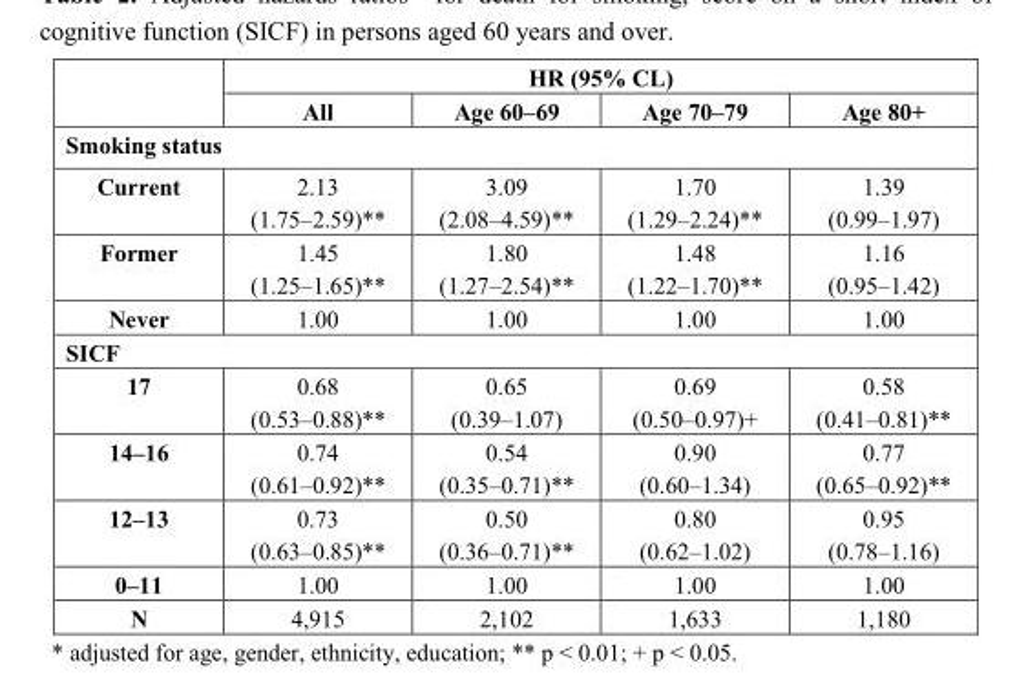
<table><thead><tr><td rowspan="2"></td><td colspan="4">HR (95% CL)</td></tr><tr><td>All</td><td>Age 60–69</td><td>Age 70–79</td><td>Age 80+</td></tr></thead><tbody><tr><td colspan="5">Smoking status</td></tr><tr><td>Current</td><td>2.13 (1.75–2.59)**</td><td>3.09 (2.08–4.59)**</td><td>1.70 (1.29–2.24)**</td><td>1.39 (0.99–1.97)</td></tr><tr><td>Former</td><td>1.45 (1.25–1.65)**</td><td>1.80 (1.27–2.54)**</td><td>1.48 (1.22–1.70)**</td><td>1.16 (0.95–1.42)</td></tr><tr><td>Never</td><td>1.00</td><td>1.00</td><td>1.00</td><td>1.00</td></tr><tr><td colspan="5">SICF</td></tr><tr><td>17</td><td>0.68 (0.53–0.88)**</td><td>0.65 (0.39–1.07)</td><td>0.69 (0.50–0.97)+</td><td>0.58 (0.41–0.81)**</td></tr><tr><td>14–16</td><td>0.74 (0.61–0.92)**</td><td>0.54 (0.35–0.71)**</td><td>0.90 (0.60–1.34)</td><td>0.77 (0.65–0.92)**</td></tr><tr><td>12–13</td><td>0.73 (0.63–0.85)**</td><td>0.50 (0.36–0.71)**</td><td>0.80 (0.62–1.02)</td><td>0.95 (0.78–1.16)</td></tr><tr><td>0–11</td><td>1.00</td><td>1.00</td><td>1.00</td><td>1.00</td></tr><tr><td>N</td><td>4,915</td><td>2,102</td><td>1,633</td><td>1,180</td></tr></tbody></table>